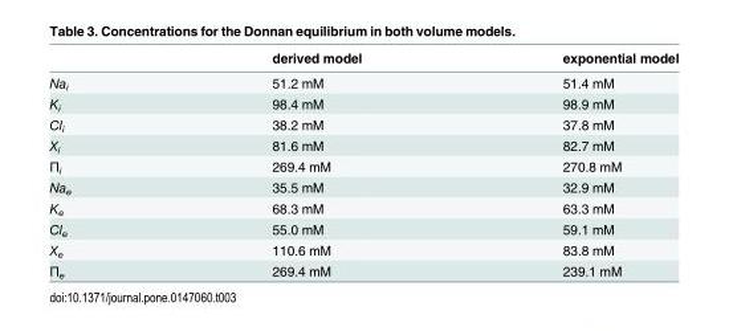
<table><thead><tr><td></td><td>derived model</td><td>exponential model</td></tr></thead><tbody><tr><td>Na<sub>i</sub></td><td>51.2 mM</td><td>51.4 mM</td></tr><tr><td>K<sub>i</sub></td><td>98.4 mM</td><td>98.9 mM</td></tr><tr><td>Cl<sub>i</sub></td><td>38.2 mM</td><td>37.8 mM</td></tr><tr><td>X<sub>i</sub></td><td>81.6 mM</td><td>82.7 mM</td></tr><tr><td>Π<sub>i</sub></td><td>269.4 mM</td><td>270.8 mM</td></tr><tr><td>Na<sub>e</sub></td><td>35.5 mM</td><td>32.9 mM</td></tr><tr><td>K<sub>e</sub></td><td>68.3 mM</td><td>63.3 mM</td></tr><tr><td>Cl<sub>e</sub></td><td>55.0 mM</td><td>59.1 mM</td></tr><tr><td>X<sub>e</sub></td><td>110.6 mM</td><td>83.8 mM</td></tr><tr><td>Π<sub>e</sub></td><td>269.4 mM</td><td>239.1 mM</td></tr></tbody></table>